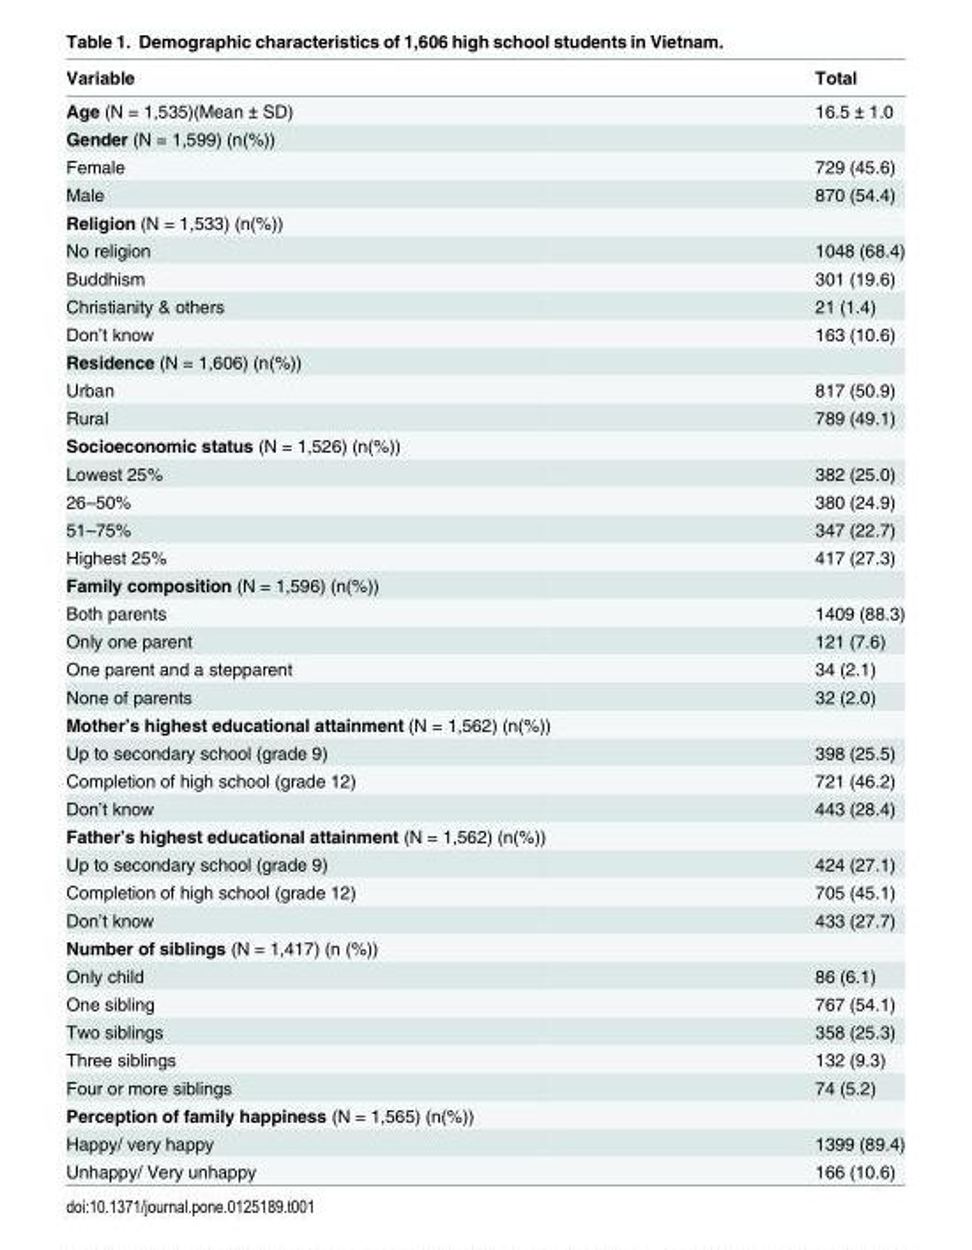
<table><thead><tr><td>Variable</td><td>Total</td></tr></thead><tbody><tr><td>Age (N = 1,535)(Mean ± SD)</td><td>16.5 ± 1.0</td></tr><tr><td colspan="2">Gender (N = 1,599) (n(%))</td></tr><tr><td>Female</td><td>729 (45.6)</td></tr><tr><td>Male</td><td>870 (54.4)</td></tr><tr><td colspan="2">Religion (N = 1,533) (n(%))</td></tr><tr><td>No religion</td><td>1048 (68.4)</td></tr><tr><td>Buddhism</td><td>301 (19.6)</td></tr><tr><td>Christianity &amp; others</td><td>21 (1.4)</td></tr><tr><td>Don’t know</td><td>163 (10.6)</td></tr><tr><td colspan="2">Residence (N = 1,606) (n(%))</td></tr><tr><td>Urban</td><td>817 (50.9)</td></tr><tr><td>Rural</td><td>789 (49.1)</td></tr><tr><td colspan="2">Socioeconomic status (N = 1,526) (n(%))</td></tr><tr><td>Lowest 25%</td><td>382 (25.0)</td></tr><tr><td>26–50%</td><td>380 (24.9)</td></tr><tr><td>51–75%</td><td>347 (22.7)</td></tr><tr><td>Highest 25%</td><td>417 (27.3)</td></tr><tr><td colspan="2">Family composition (N = 1,596) (n(%))</td></tr><tr><td>Both parents</td><td>1409 (88.3)</td></tr><tr><td>Only one parent</td><td>121 (7.6)</td></tr><tr><td>One parent and a stepparent</td><td>34 (2.1)</td></tr><tr><td>None of parents</td><td>32 (2.0)</td></tr><tr><td colspan="2">Mother’s highest educational attainment (N = 1,562) (n(%))</td></tr><tr><td>Up to secondary school (grade 9)</td><td>398 (25.5)</td></tr><tr><td>Completion of high school (grade 12)</td><td>721 (46.2)</td></tr><tr><td>Don’t know</td><td>443 (28.4)</td></tr><tr><td colspan="2">Father’s highest educational attainment (N = 1,562) (n(%))</td></tr><tr><td>Up to secondary school (grade 9)</td><td>424 (27.1)</td></tr><tr><td>Completion of high school (grade 12)</td><td>705 (45.1)</td></tr><tr><td>Don’t know</td><td>433 (27.7)</td></tr><tr><td colspan="2">Number of siblings (N = 1,417) (n (%))</td></tr><tr><td>Only child</td><td>86 (6.1)</td></tr><tr><td>One sibling</td><td>767 (54.1)</td></tr><tr><td>Two siblings</td><td>358 (25.3)</td></tr><tr><td>Three siblings</td><td>132 (9.3)</td></tr><tr><td>Four or more siblings</td><td>74 (5.2)</td></tr><tr><td colspan="2">Perception of family happiness (N = 1,565) (n(%))</td></tr><tr><td>Happy/ very happy</td><td>1399 (89.4)</td></tr><tr><td>Unhappy/ Very unhappy</td><td>166 (10.6)</td></tr></tbody></table>